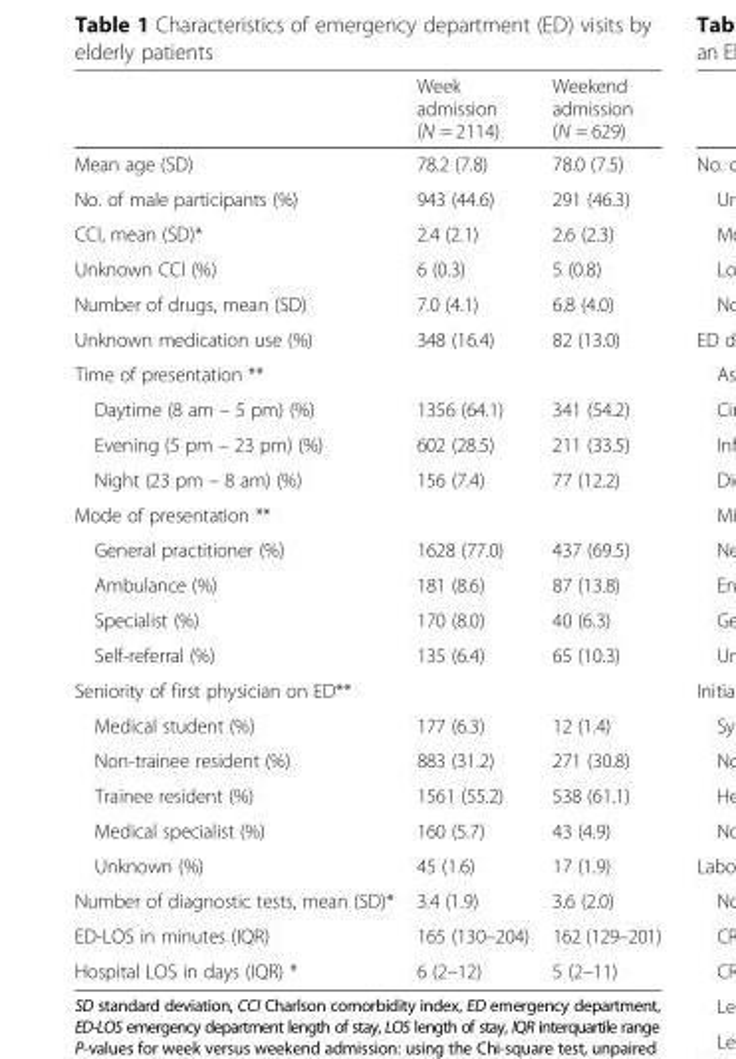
<table><thead><tr><td></td><td>Week admission (N = 2114)</td><td>Weekend admission (N = 629)</td></tr></thead><tbody><tr><td>Mean age (SD)</td><td>78.2 (7.8)</td><td>78.0 (7.5)</td></tr><tr><td>No. of male participants (%)</td><td>943 (44.6)</td><td>291 (46.3)</td></tr><tr><td>CCI, mean (SD)*</td><td>2.4 (2.1)</td><td>2.6 (2.3)</td></tr><tr><td>Unknown CCI (%)</td><td>6 (0.3)</td><td>5 (0.8)</td></tr><tr><td>Number of drugs, mean (SD)</td><td>7.0 (4.1)</td><td>6.8 (4.0)</td></tr><tr><td>Unknown medication use (%)</td><td>348 (16.4)</td><td>82 (13.0)</td></tr><tr><td colspan="3">Time of presentation **</td></tr><tr><td>Daytime (8 am – 5 pm) (%)</td><td>1356 (64.1)</td><td>341 (54.2)</td></tr><tr><td>Evening (5 pm – 23 pm) (%)</td><td>602 (28.5)</td><td>211 (33.5)</td></tr><tr><td>Night (23 pm – 8 am) (%)</td><td>156 (7.4)</td><td>77 (12.2)</td></tr><tr><td colspan="3">Mode of presentation **</td></tr><tr><td>General practitioner (%)</td><td>1628 (77.0)</td><td>437 (69.5)</td></tr><tr><td>Ambulance (%)</td><td>181 (8.6)</td><td>87 (13.8)</td></tr><tr><td>Specialist (%)</td><td>170 (8.0)</td><td>40 (6.3)</td></tr><tr><td>Self-referral (%)</td><td>135 (6.4)</td><td>65 (10.3)</td></tr><tr><td colspan="3">Seniority of first physician on ED**</td></tr><tr><td>Medical student (%)</td><td>177 (6.3)</td><td>12 (1.4)</td></tr><tr><td>Non-trainee resident (%)</td><td>883 (31.2)</td><td>271 (30.8)</td></tr><tr><td>Trainee resident (%)</td><td>1561 (55.2)</td><td>538 (61.1)</td></tr><tr><td>Medical specialist (%)</td><td>160 (5.7)</td><td>43 (4.9)</td></tr><tr><td>Unknown (%)</td><td>45 (1.6)</td><td>17 (1.9)</td></tr><tr><td>Number of diagnostic tests, mean (SD)*</td><td>3.4 (1.9)</td><td>3.6 (2.0)</td></tr><tr><td>ED-LOS in minutes (IQR)</td><td>165 (130–204)</td><td>162 (129–201)</td></tr><tr><td>Hospital LOS in days (IQR) *</td><td>6 (2–12)</td><td>5 (2–11)</td></tr></tbody></table>